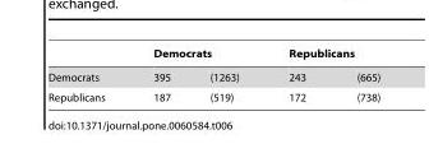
<table><thead><tr><td rowspan="2">Democrats</td><td colspan="2">Democrats</td><td colspan="2">Republicans</td></tr><tr><td>395</td><td>(1263)</td><td>243</td><td>(665)</td></tr></thead><tbody><tr><td>Republicans</td><td>187</td><td>(519)</td><td>172</td><td>(738)</td></tr></tbody></table>